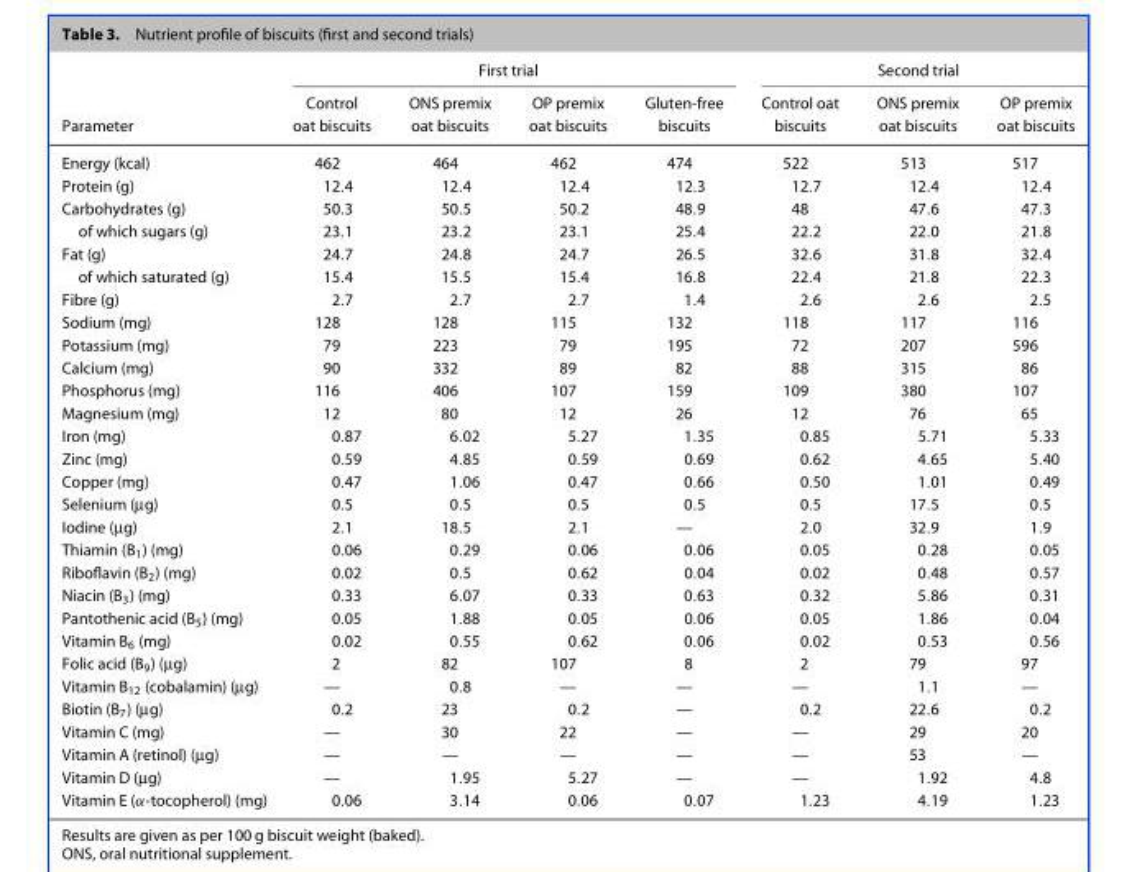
<table><thead><tr><td rowspan="2">Parameter</td><td colspan="4">First trial</td><td colspan="3">Second trial</td></tr><tr><td>Control oat biscuits</td><td>ONS premix oat biscuits</td><td>OP premix oat biscuits</td><td>Gluten-free biscuits</td><td>Control oat biscuits</td><td>ONS premix oat biscuits</td><td>OP premix oat biscuits</td></tr></thead><tbody><tr><td>Energy (kcal)</td><td>462</td><td>464</td><td>462</td><td>474</td><td>522</td><td>513</td><td>517</td></tr><tr><td>Protein (g)</td><td>12.4</td><td>12.4</td><td>12.4</td><td>12.3</td><td>12.7</td><td>12.4</td><td>12.4</td></tr><tr><td>Carbohydrates (g)</td><td>50.3</td><td>50.5</td><td>50.2</td><td>48.9</td><td>48</td><td>47.6</td><td>47.3</td></tr><tr><td>of which sugars (g)</td><td>23.1</td><td>23.2</td><td>23.1</td><td>25.4</td><td>22.2</td><td>22.0</td><td>21.8</td></tr><tr><td>Fat (g)</td><td>24.7</td><td>24.8</td><td>24.7</td><td>26.5</td><td>32.6</td><td>31.8</td><td>32.4</td></tr><tr><td>of which saturated (g)</td><td>15.4</td><td>15.5</td><td>15.4</td><td>16.8</td><td>22.4</td><td>21.8</td><td>22.3</td></tr><tr><td>Fibre (g)</td><td>2.7</td><td>2.7</td><td>2.7</td><td>1.4</td><td>2.6</td><td>2.6</td><td>2.5</td></tr><tr><td>Sodium (mg)</td><td>128</td><td>128</td><td>115</td><td>132</td><td>118</td><td>117</td><td>116</td></tr><tr><td>Potassium (mg)</td><td>79</td><td>223</td><td>79</td><td>195</td><td>72</td><td>207</td><td>596</td></tr><tr><td>Calcium (mg)</td><td>90</td><td>332</td><td>89</td><td>82</td><td>88</td><td>315</td><td>86</td></tr><tr><td>Phosphorus (mg)</td><td>116</td><td>406</td><td>107</td><td>159</td><td>109</td><td>380</td><td>107</td></tr><tr><td>Magnesium (mg)</td><td>12</td><td>80</td><td>12</td><td>26</td><td>12</td><td>76</td><td>65</td></tr><tr><td>Iron (mg)</td><td>0.87</td><td>6.02</td><td>5.27</td><td>1.35</td><td>0.85</td><td>5.71</td><td>5.33</td></tr><tr><td>Zinc (mg)</td><td>0.59</td><td>4.85</td><td>0.59</td><td>0.69</td><td>0.62</td><td>4.65</td><td>5.40</td></tr><tr><td>Copper (mg)</td><td>0.47</td><td>1.06</td><td>0.47</td><td>0.66</td><td>0.50</td><td>1.01</td><td>0.49</td></tr><tr><td>Selenium (μg)</td><td>0.5</td><td>0.5</td><td>0.5</td><td>0.5</td><td>0.5</td><td>17.5</td><td>0.5</td></tr><tr><td>Iodine (μg)</td><td>2.1</td><td>18.5</td><td>2.1</td><td>—</td><td>2.0</td><td>32.9</td><td>1.9</td></tr><tr><td>Thiamin (B<sub>1</sub>) (mg)</td><td>0.06</td><td>0.29</td><td>0.06</td><td>0.06</td><td>0.05</td><td>0.28</td><td>0.05</td></tr><tr><td>Riboflavin (B<sub>2</sub>) (mg)</td><td>0.02</td><td>0.5</td><td>0.62</td><td>0.04</td><td>0.02</td><td>0.48</td><td>0.57</td></tr><tr><td>Niacin (B<sub>3</sub>) (mg)</td><td>0.33</td><td>6.07</td><td>0.33</td><td>0.63</td><td>0.32</td><td>5.86</td><td>0.31</td></tr><tr><td>Pantothenic acid (B<sub>5</sub>) (mg)</td><td>0.05</td><td>1.88</td><td>0.05</td><td>0.06</td><td>0.05</td><td>1.86</td><td>0.04</td></tr><tr><td>Vitamin B<sub>6</sub> (mg)</td><td>0.02</td><td>0.55</td><td>0.62</td><td>0.06</td><td>0.02</td><td>0.53</td><td>0.56</td></tr><tr><td>Folic acid (B<sub>9</sub>) (μg)</td><td>2</td><td>82</td><td>107</td><td>8</td><td>2</td><td>79</td><td>97</td></tr><tr><td>Vitamin B<sub>12</sub> (cobalamin) (μg)</td><td>—</td><td>0.8</td><td>—</td><td>—</td><td>—</td><td>1.1</td><td>—</td></tr><tr><td>Biotin (B<sub>7</sub>) (μg)</td><td>0.2</td><td>23</td><td>0.2</td><td>—</td><td>0.2</td><td>22.6</td><td>0.2</td></tr><tr><td>Vitamin C (mg)</td><td>—</td><td>30</td><td>22</td><td>—</td><td>—</td><td>29</td><td>20</td></tr><tr><td>Vitamin A (retinol) (μg)</td><td>—</td><td>—</td><td>—</td><td>—</td><td>—</td><td>53</td><td>—</td></tr><tr><td>Vitamin D (μg)</td><td>—</td><td>1.95</td><td>5.27</td><td>—</td><td>—</td><td>1.92</td><td>4.8</td></tr><tr><td>Vitamin E (α-tocopherol) (mg)</td><td>0.06</td><td>3.14</td><td>0.06</td><td>0.07</td><td>1.23</td><td>4.19</td><td>1.23</td></tr></tbody></table>